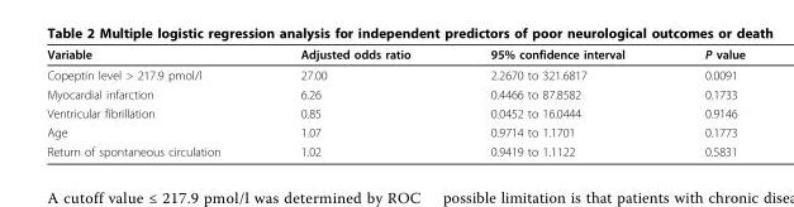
<table><thead><tr><td>Variable</td><td>Adjusted odds ratio</td><td>95% confidence interval</td><td>P value</td></tr></thead><tbody><tr><td>Copeptin level &gt; 217.9 pmol/l</td><td>27.00</td><td>2.2670 to 321.6817</td><td>0.0091</td></tr><tr><td>Myocardial infarction</td><td>6.26</td><td>0.4466 to 87.8582</td><td>0.1733</td></tr><tr><td>Ventricular fibrillation</td><td>0.85</td><td>0.0452 to 16.0444</td><td>0.9146</td></tr><tr><td>Age</td><td>1.07</td><td>0.9714 to 1.1701</td><td>0.1773</td></tr><tr><td>Return of spontaneous circulation</td><td>1.02</td><td>0.9419 to 1.1122</td><td>0.5831</td></tr></tbody></table>